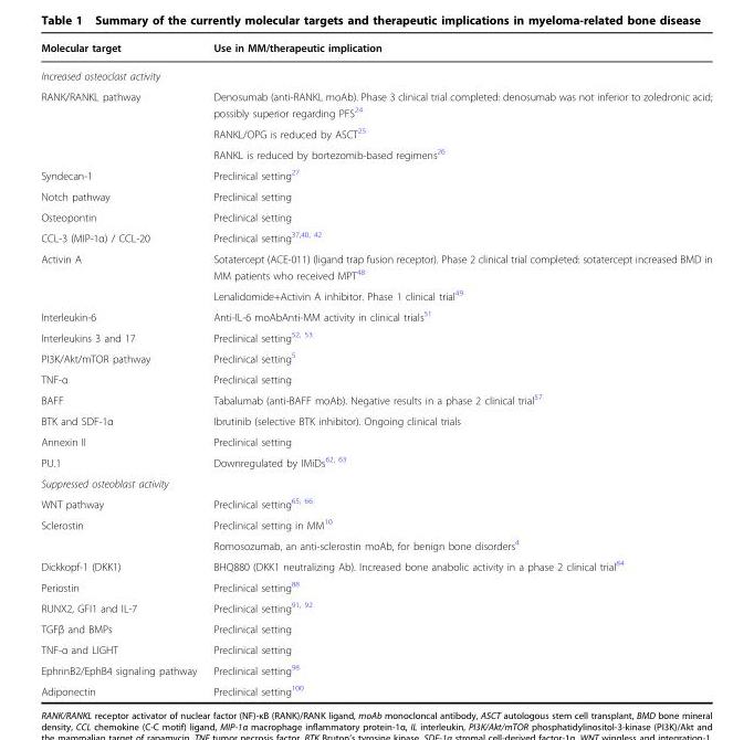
<table><thead><tr><td>Molecular target</td><td>Use in MM/therapeutic implication</td></tr></thead><tbody><tr><td colspan="2">Increased osteoclast activity</td></tr><tr><td rowspan="3">RANK/RANKL pathway</td><td>Denosumab (anti-RANKL moAb). Phase 3 clinical trial completed: denosumab was not inferior to zoledronic acid; possibly superior regarding PFS<sup>24</sup></td></tr><tr><td>RANKL/OPG is reduced by ASCT<sup>25</sup></td></tr><tr><td>RANKL is reduced by bortezomib-based regimens<sup>26</sup></td></tr><tr><td>Syndecan-1</td><td>Preclinical setting<sup>27</sup></td></tr><tr><td>Notch pathway</td><td>Preclinical setting</td></tr><tr><td>Osteopontin</td><td>Preclinical setting</td></tr><tr><td>CCL-3 (MIP-1α) / CCL-20</td><td>Preclinical setting<sup>37,40, 42</sup></td></tr><tr><td rowspan="2">Activin A</td><td>Sotatercept (ACE-011) (ligand trap fusion receptor). Phase 2 clinical trial completed: sotatercept increased BMD in MM patients who received MPT<sup>48</sup></td></tr><tr><td>Lenalidomide+Activin A inhibitor. Phase 1 clinical trial<sup>49</sup></td></tr><tr><td>Interleukin-6</td><td>Anti-IL-6 moAbAnti-MM activity in clinical trials<sup>51</sup></td></tr><tr><td>Interleukins 3 and 17</td><td>Preclinical setting<sup>52, 53</sup></td></tr><tr><td>PI3K/Akt/mTOR pathway</td><td>Preclinical setting<sup>5</sup></td></tr><tr><td>TNF-α</td><td>Preclinical setting</td></tr><tr><td>BAFF</td><td>Tabalumab (anti-BAFF moAb). Negative results in a phase 2 clinical trial<sup>57</sup></td></tr><tr><td>BTK and SDF-1α</td><td>Ibrutinib (selective BTK inhibitor). Ongoing clinical trials</td></tr><tr><td>Annexin II</td><td>Preclinical setting</td></tr><tr><td>PU.1</td><td>Downregulated by IMiDs<sup>62, 63</sup></td></tr><tr><td colspan="2">Suppressed osteoblast activity</td></tr><tr><td>WNT pathway</td><td>Preclinical setting<sup>65, 66</sup></td></tr><tr><td rowspan="2">Sclerostin</td><td>Preclinical setting in MM<sup>10</sup></td></tr><tr><td>Romosozumab, an anti-sclerostin moAb, for benign bone disorders<sup>4</sup></td></tr><tr><td>Dickkopf-1 (DKK1)</td><td>BHQ880 (DKK1 neutralizing Ab). Increased bone anabolic activity in a phase 2 clinical trial<sup>84</sup></td></tr><tr><td>Periostin</td><td>Preclinical setting<sup>88</sup></td></tr><tr><td>RUNX2, GFI1 and IL-7</td><td>Preclinical setting<sup>91, 92</sup></td></tr><tr><td>TGFβ and BMPs</td><td>Preclinical setting</td></tr><tr><td>TNF-α and LIGHT</td><td>Preclinical setting</td></tr><tr><td>EphrinB2/EphB4 signaling pathway</td><td>Preclinical setting<sup>98</sup></td></tr><tr><td>Adiponectin</td><td>Preclinical setting<sup>100</sup></td></tr></tbody></table>